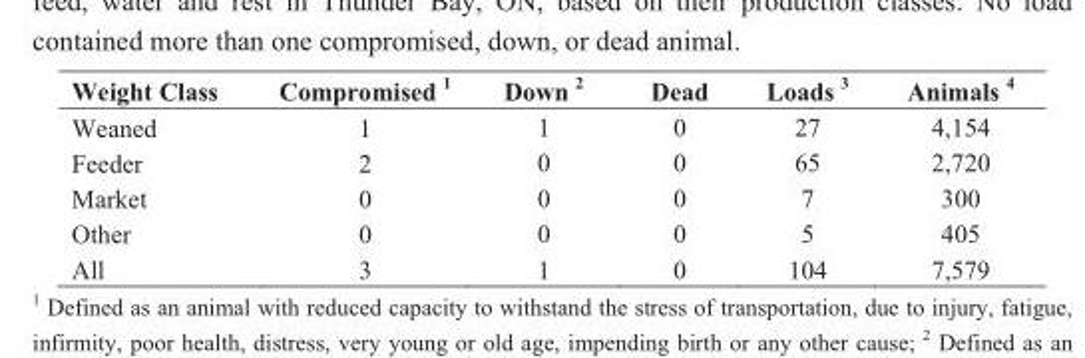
<table><thead><tr><td>Weight Class</td><td>Compromised <sup>1</sup></td><td>Down <sup>2</sup></td><td>Dead</td><td>Loads <sup>3</sup></td><td>Animals <sup>4</sup></td></tr></thead><tbody><tr><td>Weaned</td><td>1</td><td>1</td><td>0</td><td>27</td><td>4,154</td></tr><tr><td>Feeder</td><td>2</td><td>0</td><td>0</td><td>65</td><td>2,720</td></tr><tr><td>Market</td><td>0</td><td>0</td><td>0</td><td>7</td><td>300</td></tr><tr><td>Other</td><td>0</td><td>0</td><td>0</td><td>5</td><td>405</td></tr><tr><td>All</td><td>3</td><td>1</td><td>0</td><td>104</td><td>7,579</td></tr></tbody></table>